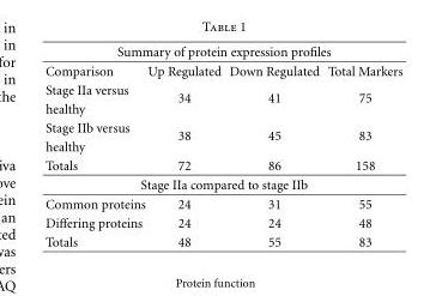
<table><thead><tr><td colspan="4">Summary of protein expression profiles</td></tr><tr><td>Comparison</td><td>Up Regulated</td><td>Down Regulated</td><td>Total Markers</td></tr></thead><tbody><tr><td>Stage IIa versus</td><td rowspan="2">34</td><td rowspan="2">41</td><td rowspan="2">75</td></tr><tr><td>healthy</td></tr><tr><td>Stage IIb versus</td><td rowspan="2">38</td><td rowspan="2">45</td><td rowspan="2">83</td></tr><tr><td>healthy</td></tr><tr><td>Totals</td><td>72</td><td>86</td><td>158</td></tr><tr><td colspan="4">Stage IIa compared to stage IIb</td></tr><tr><td>Common proteins</td><td>24</td><td>31</td><td>55</td></tr><tr><td>Differing proteins</td><td>24</td><td>24</td><td>48</td></tr><tr><td>Totals</td><td>48</td><td>55</td><td>83</td></tr></tbody></table>